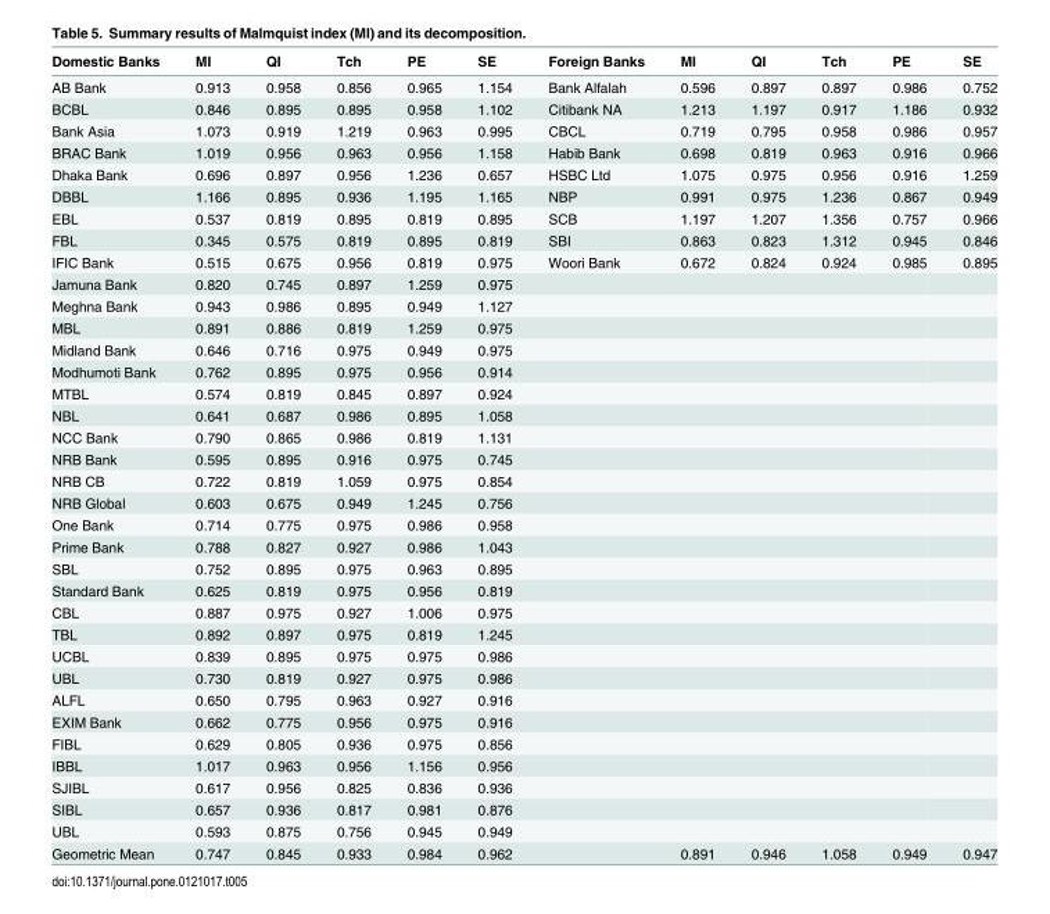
<table><thead><tr><td>Domestic Banks</td><td>MI</td><td>QI</td><td>Tch</td><td>PE</td><td>SE</td><td>Foreign Banks</td><td>MI</td><td>QI</td><td>Tch</td><td>PE</td><td>SE</td></tr></thead><tbody><tr><td>AB Bank</td><td>0.913</td><td>0.958</td><td>0.856</td><td>0.965</td><td>1.154</td><td>Bank Alfalah</td><td>0.596</td><td>0.897</td><td>0.897</td><td>0.986</td><td>0.752</td></tr><tr><td>BCBL</td><td>0.846</td><td>0.895</td><td>0.895</td><td>0.958</td><td>1.102</td><td>Citibank NA</td><td>1.213</td><td>1.197</td><td>0.917</td><td>1.186</td><td>0.932</td></tr><tr><td>Bank Asia</td><td>1.073</td><td>0.919</td><td>1.219</td><td>0.963</td><td>0.995</td><td>CBCL</td><td>0.719</td><td>0.795</td><td>0.958</td><td>0.986</td><td>0.957</td></tr><tr><td>BRAC Bank</td><td>1.019</td><td>0.956</td><td>0.963</td><td>0.956</td><td>1.158</td><td>Habib Bank</td><td>0.698</td><td>0.819</td><td>0.963</td><td>0.916</td><td>0.966</td></tr><tr><td>Dhaka Bank</td><td>0.696</td><td>0.897</td><td>0.956</td><td>1.236</td><td>0.657</td><td>HSBC Ltd</td><td>1.075</td><td>0.975</td><td>0.956</td><td>0.916</td><td>1.259</td></tr><tr><td>DBBL</td><td>1.166</td><td>0.895</td><td>0.936</td><td>1.195</td><td>1.165</td><td>NBP</td><td>0.991</td><td>0.975</td><td>1.236</td><td>0.867</td><td>0.949</td></tr><tr><td>EBL</td><td>0.537</td><td>0.819</td><td>0.895</td><td>0.819</td><td>0.895</td><td>SCB</td><td>1.197</td><td>1.207</td><td>1.356</td><td>0.757</td><td>0.966</td></tr><tr><td>FBL</td><td>0.345</td><td>0.575</td><td>0.819</td><td>0.895</td><td>0.819</td><td>SBI</td><td>0.863</td><td>0.823</td><td>1.312</td><td>0.945</td><td>0.846</td></tr><tr><td>IFIC Bank</td><td>0.515</td><td>0.675</td><td>0.956</td><td>0.819</td><td>0.975</td><td>Woori Bank</td><td>0.672</td><td>0.824</td><td>0.924</td><td>0.985</td><td>0.895</td></tr><tr><td>Jamuna Bank</td><td>0.820</td><td>0.745</td><td>0.897</td><td>1.259</td><td>0.975</td><td></td><td></td><td></td><td></td><td></td><td></td></tr><tr><td>Meghna Bank</td><td>0.943</td><td>0.986</td><td>0.895</td><td>0.949</td><td>1.127</td><td></td><td></td><td></td><td></td><td></td><td></td></tr><tr><td>MBL</td><td>0.891</td><td>0.886</td><td>0.819</td><td>1.259</td><td>0.975</td><td></td><td></td><td></td><td></td><td></td><td></td></tr><tr><td>Midland Bank</td><td>0.646</td><td>0.716</td><td>0.975</td><td>0.949</td><td>0.975</td><td></td><td></td><td></td><td></td><td></td><td></td></tr><tr><td>Modhumoti Bank</td><td>0.762</td><td>0.895</td><td>0.975</td><td>0.956</td><td>0.914</td><td></td><td></td><td></td><td></td><td></td><td></td></tr><tr><td>MTBL</td><td>0.574</td><td>0.819</td><td>0.845</td><td>0.897</td><td>0.924</td><td></td><td></td><td></td><td></td><td></td><td></td></tr><tr><td>NBL</td><td>0.641</td><td>0.687</td><td>0.986</td><td>0.895</td><td>1.058</td><td></td><td></td><td></td><td></td><td></td><td></td></tr><tr><td>NCC Bank</td><td>0.790</td><td>0.865</td><td>0.986</td><td>0.819</td><td>1.131</td><td></td><td></td><td></td><td></td><td></td><td></td></tr><tr><td>NRB Bank</td><td>0.595</td><td>0.895</td><td>0.916</td><td>0.975</td><td>0.745</td><td></td><td></td><td></td><td></td><td></td><td></td></tr><tr><td>NRB CB</td><td>0.722</td><td>0.819</td><td>1.059</td><td>0.975</td><td>0.854</td><td></td><td></td><td></td><td></td><td></td><td></td></tr><tr><td>NRB Global</td><td>0.603</td><td>0.675</td><td>0.949</td><td>1.245</td><td>0.756</td><td></td><td></td><td></td><td></td><td></td><td></td></tr><tr><td>One Bank</td><td>0.714</td><td>0.775</td><td>0.975</td><td>0.986</td><td>0.958</td><td></td><td></td><td></td><td></td><td></td><td></td></tr><tr><td>Prime Bank</td><td>0.788</td><td>0.827</td><td>0.927</td><td>0.986</td><td>1.043</td><td></td><td></td><td></td><td></td><td></td><td></td></tr><tr><td>SBL</td><td>0.752</td><td>0.895</td><td>0.975</td><td>0.963</td><td>0.895</td><td></td><td></td><td></td><td></td><td></td><td></td></tr><tr><td>Standard Bank</td><td>0.625</td><td>0.819</td><td>0.975</td><td>0.956</td><td>0.819</td><td></td><td></td><td></td><td></td><td></td><td></td></tr><tr><td>CBL</td><td>0.887</td><td>0.975</td><td>0.927</td><td>1.006</td><td>0.975</td><td></td><td></td><td></td><td></td><td></td><td></td></tr><tr><td>TBL</td><td>0.892</td><td>0.897</td><td>0.975</td><td>0.819</td><td>1.245</td><td></td><td></td><td></td><td></td><td></td><td></td></tr><tr><td>UCBL</td><td>0.839</td><td>0.895</td><td>0.975</td><td>0.975</td><td>0.986</td><td></td><td></td><td></td><td></td><td></td><td></td></tr><tr><td>UBL</td><td>0.730</td><td>0.819</td><td>0.927</td><td>0.975</td><td>0.986</td><td></td><td></td><td></td><td></td><td></td><td></td></tr><tr><td>ALFL</td><td>0.650</td><td>0.795</td><td>0.963</td><td>0.927</td><td>0.916</td><td></td><td></td><td></td><td></td><td></td><td></td></tr><tr><td>EXIM Bank</td><td>0.662</td><td>0.775</td><td>0.956</td><td>0.975</td><td>0.916</td><td></td><td></td><td></td><td></td><td></td><td></td></tr><tr><td>FIBL</td><td>0.629</td><td>0.805</td><td>0.936</td><td>0.975</td><td>0.856</td><td></td><td></td><td></td><td></td><td></td><td></td></tr><tr><td>IBBL</td><td>1.017</td><td>0.963</td><td>0.956</td><td>1.156</td><td>0.956</td><td></td><td></td><td></td><td></td><td></td><td></td></tr><tr><td>SJIBL</td><td>0.617</td><td>0.956</td><td>0.825</td><td>0.836</td><td>0.936</td><td></td><td></td><td></td><td></td><td></td><td></td></tr><tr><td>SIBL</td><td>0.657</td><td>0.936</td><td>0.817</td><td>0.981</td><td>0.876</td><td></td><td></td><td></td><td></td><td></td><td></td></tr><tr><td>UBL</td><td>0.593</td><td>0.875</td><td>0.756</td><td>0.945</td><td>0.949</td><td></td><td></td><td></td><td></td><td></td><td></td></tr><tr><td>Geometric Mean</td><td>0.747</td><td>0.845</td><td>0.933</td><td>0.984</td><td>0.962</td><td></td><td>0.891</td><td>0.946</td><td>1.058</td><td>0.949</td><td>0.947</td></tr></tbody></table>